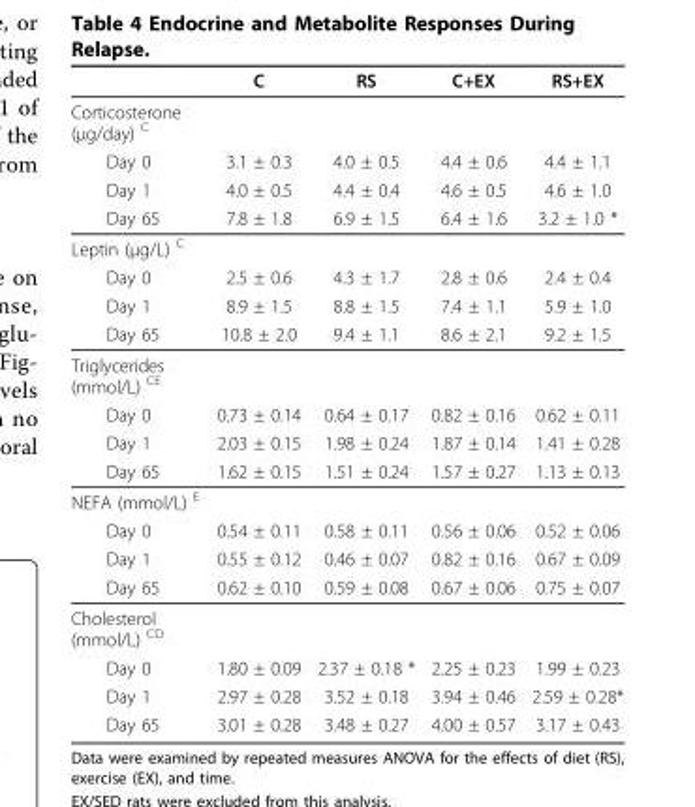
<table><thead><tr><td></td><td>C</td><td>RS</td><td>C+EX</td><td>RS+EX</td></tr></thead><tbody><tr><td colspan="5">Corticosterone (μg/day) <sup>C</sup></td></tr><tr><td>Day 0</td><td>3.1 ± 0.3</td><td>4.0 ± 0.5</td><td>4.4 ± 0.6</td><td>4.4 ± 1.1</td></tr><tr><td>Day 1</td><td>4.0 ± 0.5</td><td>4.4 ± 0.4</td><td>4.6 ± 0.5</td><td>4.6 ± 1.0</td></tr><tr><td>Day 65</td><td>7.8 ± 1.8</td><td>6.9 ± 1.5</td><td>6.4 ± 1.6</td><td>3.2 ± 1.0 *</td></tr><tr><td colspan="5">Leptin (μg/L) <sup>C</sup></td></tr><tr><td>Day 0</td><td>2.5 ± 0.6</td><td>4.3 ± 1.7</td><td>2.8 ± 0.6</td><td>2.4 ± 0.4</td></tr><tr><td>Day 1</td><td>8.9 ± 1.5</td><td>8.8 ± 1.5</td><td>7.4 ± 1.1</td><td>5.9 ± 1.0</td></tr><tr><td>Day 65</td><td>10.8 ± 2.0</td><td>9.4 ± 1.1</td><td>8.6 ± 2.1</td><td>9.2 ± 1.5</td></tr><tr><td colspan="5">Triglycerides (mmol/L) <sup>CE</sup></td></tr><tr><td>Day 0</td><td>0.73 ± 0.14</td><td>0.64 ± 0.17</td><td>0.82 ± 0.16</td><td>0.62 ± 0.11</td></tr><tr><td>Day 1</td><td>2.03 ± 0.15</td><td>1.98 ± 0.24</td><td>1.87 ± 0.14</td><td>1.41 ± 0.28</td></tr><tr><td>Day 65</td><td>1.62 ± 0.15</td><td>1.51 ± 0.24</td><td>1.57 ± 0.27</td><td>1.13 ± 0.13</td></tr><tr><td colspan="5">NEFA (mmol/L) <sup>E</sup></td></tr><tr><td>Day 0</td><td>0.54 ± 0.11</td><td>0.58 ± 0.11</td><td>0.56 ± 0.06</td><td>0.52 ± 0.06</td></tr><tr><td>Day 1</td><td>0.55 ± 0.12</td><td>0.46 ± 0.07</td><td>0.82 ± 0.16</td><td>0.67 ± 0.09</td></tr><tr><td>Day 65</td><td>0.62 ± 0.10</td><td>0.59 ± 0.08</td><td>0.67 ± 0.06</td><td>0.75 ± 0.07</td></tr><tr><td colspan="5">Cholesterol (mmol/L) <sup>CD</sup></td></tr><tr><td>Day 0</td><td>1.80 ± 0.09</td><td>2.37 ± 0.18 *</td><td>2.25 ± 0.23</td><td>1.99 ± 0.23</td></tr><tr><td>Day 1</td><td>2.97 ± 0.28</td><td>3.52 ± 0.18</td><td>3.94 ± 0.46</td><td>2.59 ± 0.28*</td></tr><tr><td>Day 65</td><td>3.01 ± 0.28</td><td>3.48 ± 0.27</td><td>4.00 ± 0.57</td><td>3.17 ± 0.43</td></tr></tbody></table>